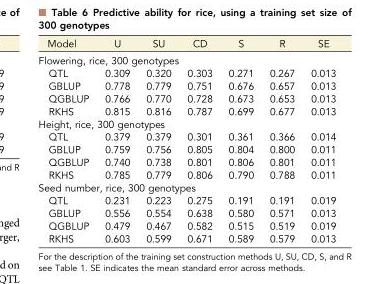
<table><thead><tr><td>Model</td><td>U</td><td>SU</td><td>CD</td><td>S</td><td>R</td><td>SE</td></tr></thead><tbody><tr><td colspan="7">Flowering, rice, 300 genotypes</td></tr><tr><td>QTL</td><td>0.309</td><td>0.320</td><td>0.303</td><td>0.271</td><td>0.267</td><td>0.013</td></tr><tr><td>GBLUP</td><td>0.778</td><td>0.779</td><td>0.751</td><td>0.676</td><td>0.657</td><td>0.013</td></tr><tr><td>QGBLUP</td><td>0.766</td><td>0.770</td><td>0.728</td><td>0.673</td><td>0.653</td><td>0.013</td></tr><tr><td>RKHS</td><td>0.815</td><td>0.816</td><td>0.787</td><td>0.699</td><td>0.677</td><td>0.013</td></tr><tr><td colspan="7">Height, rice, 300 genotypes</td></tr><tr><td>QTL</td><td>0.379</td><td>0.379</td><td>0.301</td><td>0.361</td><td>0.366</td><td>0.014</td></tr><tr><td>GBLUP</td><td>0.759</td><td>0.756</td><td>0.805</td><td>0.804</td><td>0.800</td><td>0.011</td></tr><tr><td>QGBLUP</td><td>0.740</td><td>0.738</td><td>0.801</td><td>0.806</td><td>0.801</td><td>0.011</td></tr><tr><td>RKHS</td><td>0.785</td><td>0.779</td><td>0.806</td><td>0.790</td><td>0.788</td><td>0.011</td></tr><tr><td colspan="7">Seed number, rice, 300 genotypes</td></tr><tr><td>QTL</td><td>0.231</td><td>0.223</td><td>0.275</td><td>0.191</td><td>0.191</td><td>0.019</td></tr><tr><td>GBLUP</td><td>0.556</td><td>0.554</td><td>0.638</td><td>0.580</td><td>0.571</td><td>0.013</td></tr><tr><td>QGBLUP</td><td>0.479</td><td>0.467</td><td>0.582</td><td>0.515</td><td>0.519</td><td>0.019</td></tr><tr><td>RKHS</td><td>0.603</td><td>0.599</td><td>0.671</td><td>0.589</td><td>0.579</td><td>0.013</td></tr></tbody></table>